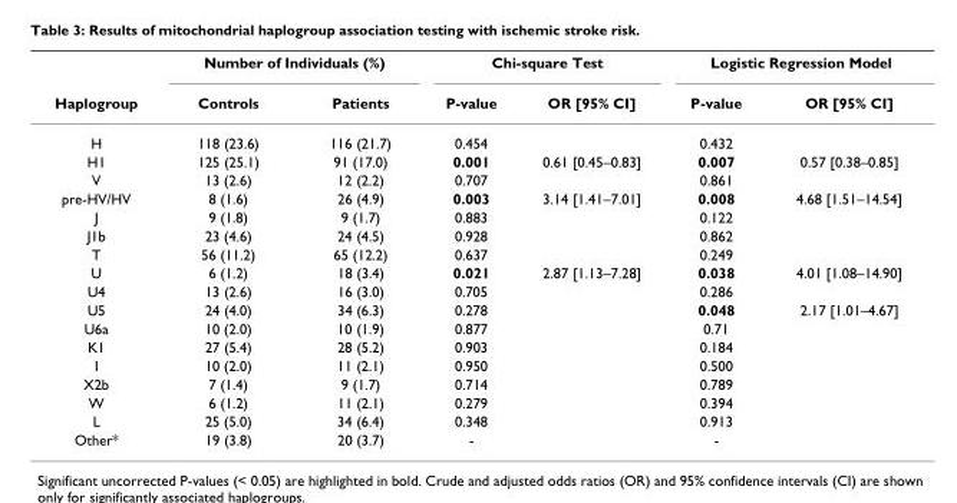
<table><thead><tr><td rowspan="2">Haplogroup</td><td colspan="2">Number of Individuals (%)</td><td colspan="2">Chi-square Test</td><td colspan="2">Logistic Regression Model</td></tr><tr><td>Controls</td><td>Patients</td><td>P-value</td><td>OR [95% CI]</td><td>P-value</td><td>OR [95% CI]</td></tr></thead><tbody><tr><td>H</td><td>118 (23.6)</td><td>116 (21.7)</td><td>0.454</td><td></td><td>0.432</td><td></td></tr><tr><td>H1</td><td>125 (25.1)</td><td>91 (17.0)</td><td>0.001</td><td>0.61 [0.45–0.83]</td><td>0.007</td><td>0.57 [0.38–0.85]</td></tr><tr><td>V</td><td>13 (2.6)</td><td>12 (2.2)</td><td>0.707</td><td></td><td>0.861</td><td></td></tr><tr><td>pre-HV/HV</td><td>8 (1.6)</td><td>26 (4.9)</td><td>0.003</td><td>3.14 [1.41–7.01]</td><td>0.008</td><td>4.68 [1.51–14.54]</td></tr><tr><td>J</td><td>9 (1.8)</td><td>9 (1.7)</td><td>0.883</td><td></td><td>0.122</td><td></td></tr><tr><td>J1b</td><td>23 (4.6)</td><td>24 (4.5)</td><td>0.928</td><td></td><td>0.862</td><td></td></tr><tr><td>T</td><td>56 (11.2)</td><td>65 (12.2)</td><td>0.637</td><td></td><td>0.249</td><td></td></tr><tr><td>U</td><td>6 (1.2)</td><td>18 (3.4)</td><td>0.021</td><td>2.87 [1.13–7.28]</td><td>0.038</td><td>4.01 [1.08–14.90]</td></tr><tr><td>U4</td><td>13 (2.6)</td><td>16 (3.0)</td><td>0.705</td><td></td><td>0.286</td><td></td></tr><tr><td>U5</td><td>24 (4.0)</td><td>34 (6.3)</td><td>0.278</td><td></td><td>0.048</td><td>2.17 [1.01–4.67]</td></tr><tr><td>U6a</td><td>10 (2.0)</td><td>10 (1.9)</td><td>0.877</td><td></td><td>0.71</td><td></td></tr><tr><td>K1</td><td>27 (5.4)</td><td>28 (5.2)</td><td>0.903</td><td></td><td>0.184</td><td></td></tr><tr><td>I</td><td>10 (2.0)</td><td>11 (2.1)</td><td>0.950</td><td></td><td>0.500</td><td></td></tr><tr><td>X2b</td><td>7 (1.4)</td><td>9 (1.7)</td><td>0.714</td><td></td><td>0.789</td><td></td></tr><tr><td>W</td><td>6 (1.2)</td><td>11 (2.1)</td><td>0.279</td><td></td><td>0.394</td><td></td></tr><tr><td>L</td><td>25 (5.0)</td><td>34 (6.4)</td><td>0.348</td><td></td><td>0.913</td><td></td></tr><tr><td>Other*</td><td>19 (3.8)</td><td>20 (3.7)</td><td>-</td><td></td><td>-</td><td></td></tr></tbody></table>